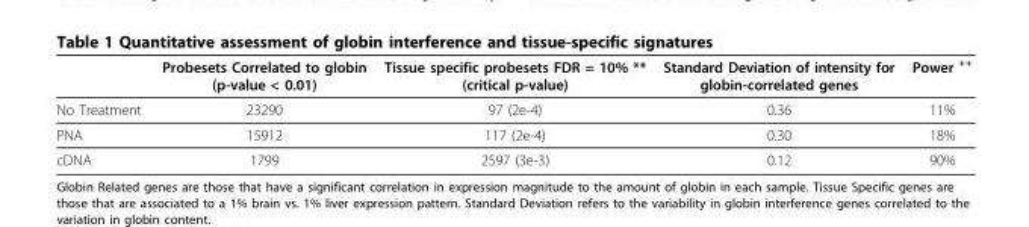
<table><thead><tr><td></td><td>Probesets Correlated to globin (p-value &lt; 0.01)</td><td>Tissue specific probesets FDR = 10% ** (critical p-value)</td><td>Standard Deviation of intensity for globin-correlated genes</td><td>Power <sup>++</sup></td></tr></thead><tbody><tr><td>No Treatment</td><td>23290</td><td>97 (2e-4)</td><td>0.36</td><td>11%</td></tr><tr><td>PNA</td><td>15912</td><td>117 (2e-4)</td><td>0.30</td><td>18%</td></tr><tr><td>cDNA</td><td>1799</td><td>2597 (3e-3)</td><td>0.12</td><td>90%</td></tr></tbody></table>